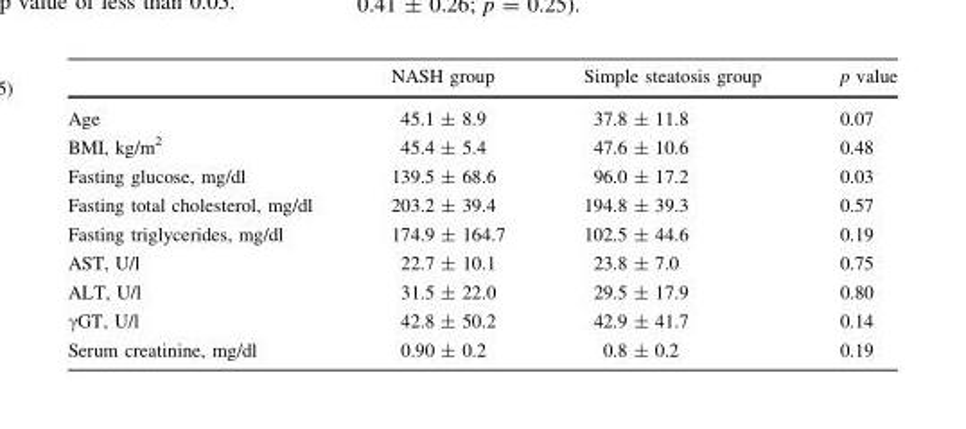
<table><thead><tr><td></td><td>NASH group</td><td>Simple steatosis group</td><td>p value</td></tr></thead><tbody><tr><td>Age</td><td>45.1 ± 8.9</td><td>37.8 ± 11.8</td><td>0.07</td></tr><tr><td>BMI, kg/m<sup>2</sup></td><td>45.4 ± 5.4</td><td>47.6 ± 10.6</td><td>0.48</td></tr><tr><td>Fasting glucose, mg/dl</td><td>139.5 ± 68.6</td><td>96.0 ± 17.2</td><td>0.03</td></tr><tr><td>Fasting total cholesterol, mg/dl</td><td>203.2 ± 39.4</td><td>194.8 ± 39.3</td><td>0.57</td></tr><tr><td>Fasting triglycerides, mg/dl</td><td>174.9 ± 164.7</td><td>102.5 ± 44.6</td><td>0.19</td></tr><tr><td>AST, U/l</td><td>22.7 ± 10.1</td><td>23.8 ± 7.0</td><td>0.75</td></tr><tr><td>ALT, U/l</td><td>31.5 ± 22.0</td><td>29.5 ± 17.9</td><td>0.80</td></tr><tr><td>γGT, U/l</td><td>42.8 ± 50.2</td><td>42.9 ± 41.7</td><td>0.14</td></tr><tr><td>Serum creatinine, mg/dl</td><td>0.90 ± 0.2</td><td>0.8 ± 0.2</td><td>0.19</td></tr></tbody></table>